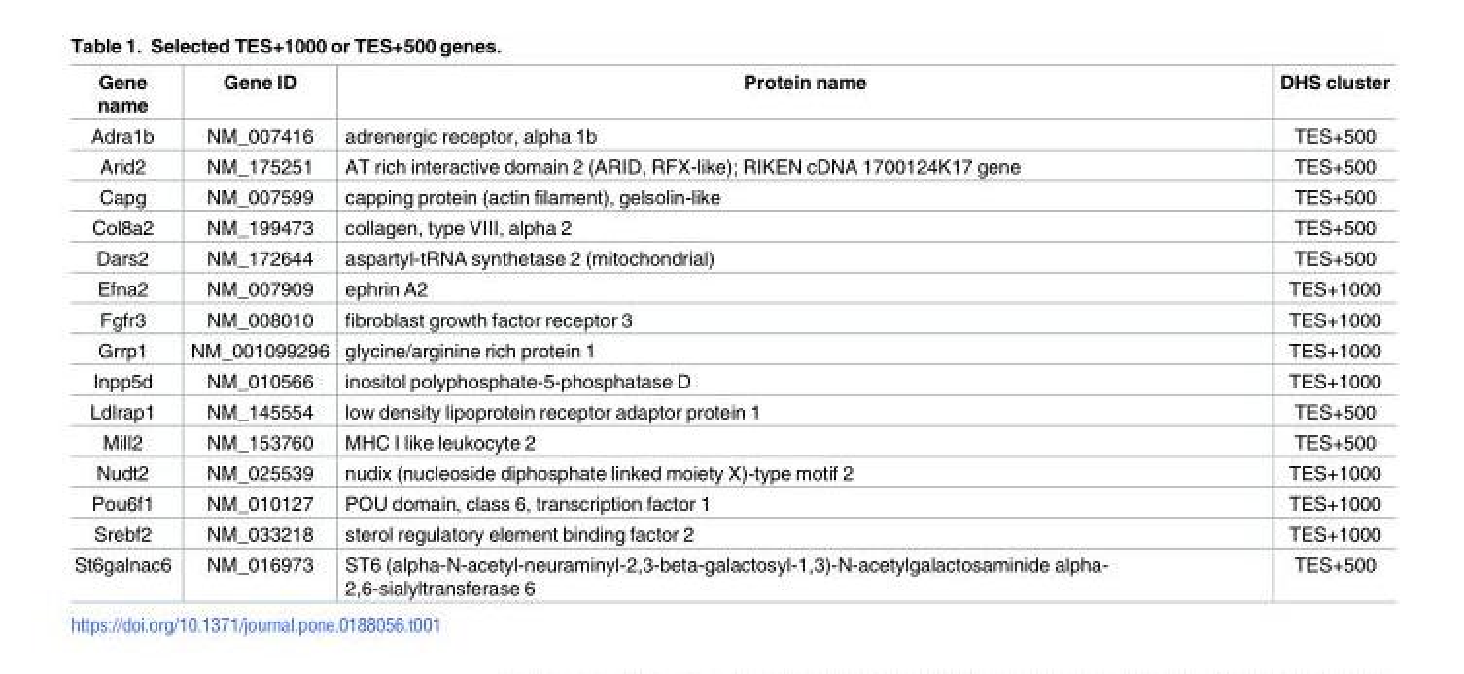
<table><thead><tr><td>Gene name</td><td>Gene ID</td><td>Protein name</td><td>DHS cluster</td></tr></thead><tbody><tr><td>Adra1b</td><td>NM_007416</td><td>adrenergic receptor, alpha 1b</td><td>TES+500</td></tr><tr><td>Arid2</td><td>NM_175251</td><td>AT rich interactive domain 2 (ARID, RFX-like); RIKEN cDNA 1700124K17 gene</td><td>TES+500</td></tr><tr><td>Capg</td><td>NM_007599</td><td>capping protein (actin filament), gelsolin-like</td><td>TES+500</td></tr><tr><td>Col8a2</td><td>NM_199473</td><td>collagen, type VIII, alpha 2</td><td>TES+500</td></tr><tr><td>Dars2</td><td>NM_172644</td><td>aspartyl-tRNA synthetase 2 (mitochondrial)</td><td>TES+500</td></tr><tr><td>Efna2</td><td>NM_007909</td><td>ephrin A2</td><td>TES+1000</td></tr><tr><td>Fgfr3</td><td>NM_008010</td><td>fibroblast growth factor receptor 3</td><td>TES+1000</td></tr><tr><td>Grrp1</td><td>NM_001099296</td><td>glycine/arginine rich protein 1</td><td>TES+1000</td></tr><tr><td>Inpp5d</td><td>NM_010566</td><td>inositol polyphosphate-5-phosphatase D</td><td>TES+1000</td></tr><tr><td>Ldlrap1</td><td>NM_145554</td><td>low density lipoprotein receptor adaptor protein 1</td><td>TES+500</td></tr><tr><td>Mill2</td><td>NM_153760</td><td>MHC I like leukocyte 2</td><td>TES+500</td></tr><tr><td>Nudt2</td><td>NM_025539</td><td>nudix (nucleoside diphosphate linked moiety X)-type motif 2</td><td>TES+1000</td></tr><tr><td>Pou6f1</td><td>NM_010127</td><td>POU domain, class 6, transcription factor 1</td><td>TES+1000</td></tr><tr><td>Srebf2</td><td>NM_033218</td><td>sterol regulatory element binding factor 2</td><td>TES+1000</td></tr><tr><td>St6galnac6</td><td>NM_016973</td><td>ST6 (alpha-N-acetyl-neuraminyl-2,3-beta-galactosyl-1,3)-N-acetylgalactosaminide alpha- 2,6-sialyltransferase 6</td><td>TES+500</td></tr></tbody></table>